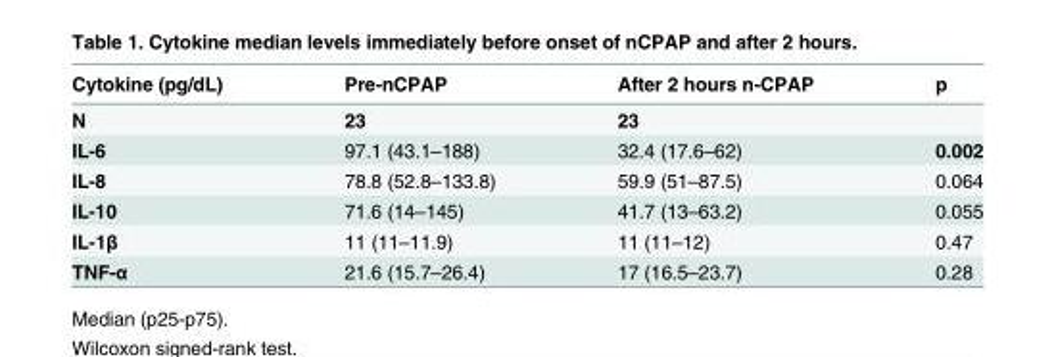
<table><thead><tr><td>Cytokine (pg/dL)</td><td>Pre-nCPAP</td><td>After 2 hours n-CPAP</td><td>p</td></tr></thead><tbody><tr><td>N</td><td>23</td><td>23</td><td></td></tr><tr><td>IL-6</td><td>97.1 (43.1–188)</td><td>32.4 (17.6–62)</td><td>0.002</td></tr><tr><td>IL-8</td><td>78.8 (52.8–133.8)</td><td>59.9 (51–87.5)</td><td>0.064</td></tr><tr><td>IL-10</td><td>71.6 (14–145)</td><td>41.7 (13–63.2)</td><td>0.055</td></tr><tr><td>IL-1β</td><td>11 (11–11.9)</td><td>11 (11–12)</td><td>0.47</td></tr><tr><td>TNF-α</td><td>21.6 (15.7–26.4)</td><td>17 (16.5–23.7)</td><td>0.28</td></tr></tbody></table>